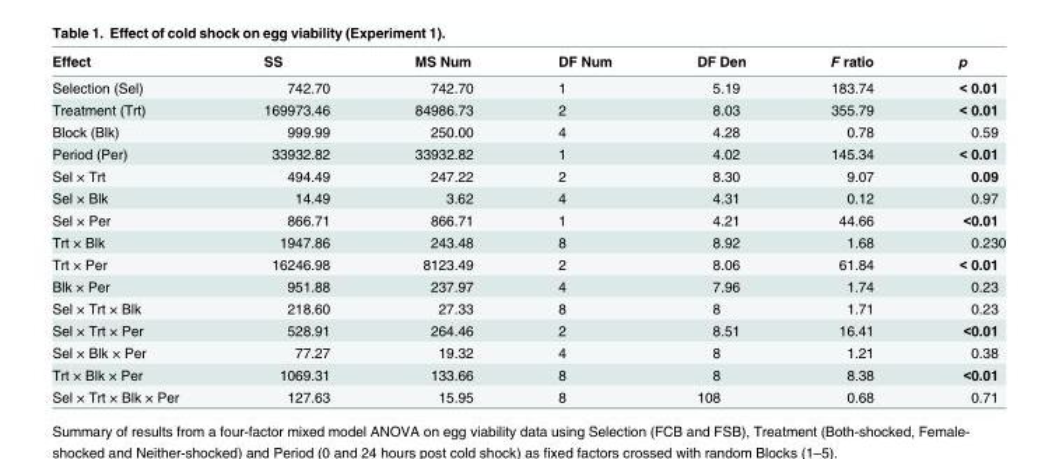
<table><thead><tr><td>Effect</td><td>SS</td><td>MS Num</td><td>DF Num</td><td>DF Den</td><td>F ratio</td><td>p</td></tr></thead><tbody><tr><td>Selection (Sel)</td><td>742.70</td><td>742.70</td><td>1</td><td>5.19</td><td>183.74</td><td>&lt; 0.01</td></tr><tr><td>Treatment (Trt)</td><td>169973.46</td><td>84986.73</td><td>2</td><td>8.03</td><td>355.79</td><td>&lt; 0.01</td></tr><tr><td>Block (Blk)</td><td>999.99</td><td>250.00</td><td>4</td><td>4.28</td><td>0.78</td><td>0.59</td></tr><tr><td>Period (Per)</td><td>33932.82</td><td>33932.82</td><td>1</td><td>4.02</td><td>145.34</td><td>&lt; 0.01</td></tr><tr><td>Sel × Trt</td><td>494.49</td><td>247.22</td><td>2</td><td>8.30</td><td>9.07</td><td>0.09</td></tr><tr><td>Sel × Blk</td><td>14.49</td><td>3.62</td><td>4</td><td>4.31</td><td>0.12</td><td>0.97</td></tr><tr><td>Sel × Per</td><td>866.71</td><td>866.71</td><td>1</td><td>4.21</td><td>44.66</td><td>&lt;0.01</td></tr><tr><td>Trt × Blk</td><td>1947.86</td><td>243.48</td><td>8</td><td>8.92</td><td>1.68</td><td>0.230</td></tr><tr><td>Trt × Per</td><td>16246.98</td><td>8123.49</td><td>2</td><td>8.06</td><td>61.84</td><td>&lt; 0.01</td></tr><tr><td>Blk × Per</td><td>951.88</td><td>237.97</td><td>4</td><td>7.96</td><td>1.74</td><td>0.23</td></tr><tr><td>Sel × Trt × Blk</td><td>218.60</td><td>27.33</td><td>8</td><td>8</td><td>1.71</td><td>0.23</td></tr><tr><td>Sel × Trt × Per</td><td>528.91</td><td>264.46</td><td>2</td><td>8.51</td><td>16.41</td><td>&lt;0.01</td></tr><tr><td>Sel × Blk × Per</td><td>77.27</td><td>19.32</td><td>4</td><td>8</td><td>1.21</td><td>0.38</td></tr><tr><td>Trt × Blk × Per</td><td>1069.31</td><td>133.66</td><td>8</td><td>8</td><td>8.38</td><td>&lt;0.01</td></tr><tr><td>Sel × Trt × Blk × Per</td><td>127.63</td><td>15.95</td><td>8</td><td>108</td><td>0.68</td><td>0.71</td></tr></tbody></table>